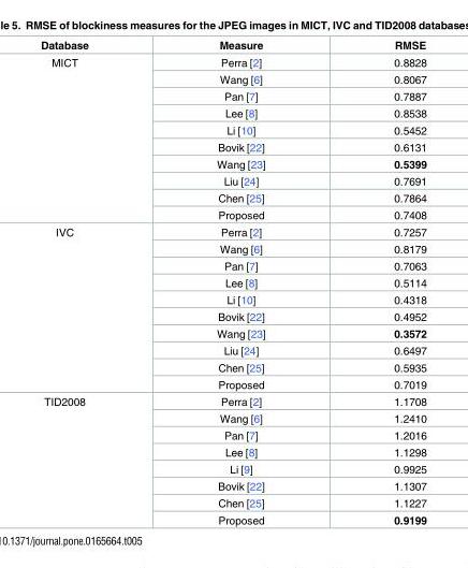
<table><thead><tr><td>Database</td><td>Measure</td><td>RMSE</td></tr></thead><tbody><tr><td rowspan="10">MICT</td><td>Perra [2]</td><td>0.8828</td></tr><tr><td>Wang [6]</td><td>0.8067</td></tr><tr><td>Pan [7]</td><td>0.7887</td></tr><tr><td>Lee [8]</td><td>0.8538</td></tr><tr><td>Li [10]</td><td>0.5452</td></tr><tr><td>Bovik [22]</td><td>0.6131</td></tr><tr><td>Wang [23]</td><td>0.5399</td></tr><tr><td>Liu [24]</td><td>0.7691</td></tr><tr><td>Chen [25]</td><td>0.7864</td></tr><tr><td>Proposed</td><td>0.7408</td></tr><tr><td rowspan="10">IVC</td><td>Perra [2]</td><td>0.7257</td></tr><tr><td>Wang [6]</td><td>0.8179</td></tr><tr><td>Pan [7]</td><td>0.7063</td></tr><tr><td>Lee [8]</td><td>0.5114</td></tr><tr><td>Li [10]</td><td>0.4318</td></tr><tr><td>Bovik [22]</td><td>0.4952</td></tr><tr><td>Wang [23]</td><td>0.3572</td></tr><tr><td>Liu [24]</td><td>0.6497</td></tr><tr><td>Chen [25]</td><td>0.5935</td></tr><tr><td>Proposed</td><td>0.7019</td></tr><tr><td rowspan="8">TID2008</td><td>Perra [2]</td><td>1.1708</td></tr><tr><td>Wang [6]</td><td>1.2410</td></tr><tr><td>Pan [7]</td><td>1.2016</td></tr><tr><td>Lee [8]</td><td>1.1298</td></tr><tr><td>Li [9]</td><td>0.9925</td></tr><tr><td>Bovik [22]</td><td>1.1307</td></tr><tr><td>Chen [25]</td><td>1.1227</td></tr><tr><td>Proposed</td><td>0.9199</td></tr></tbody></table>